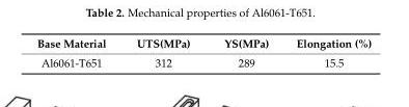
<table><thead><tr><td>Base Material</td><td>UTS(MPa)</td><td>YS(MPa)</td><td>Elongation (%)</td></tr></thead><tbody><tr><td>Al6061-T651</td><td>312</td><td>289</td><td>15.5</td></tr></tbody></table>